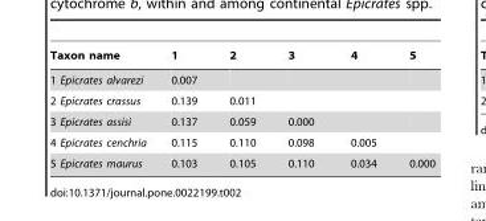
<table><thead><tr><td>Taxon name</td><td>1</td><td>2</td><td>3</td><td>4</td><td>5</td></tr></thead><tbody><tr><td>1 Epicrates alvarezi</td><td>0.007</td><td></td><td></td><td></td><td></td></tr><tr><td>2 Epicrates crassus</td><td>0.139</td><td>0.011</td><td></td><td></td><td></td></tr><tr><td>3 Epicrates assisi</td><td>0.137</td><td>0.059</td><td>0.000</td><td></td><td></td></tr><tr><td>4 Epicrates cenchria</td><td>0.115</td><td>0.110</td><td>0.098</td><td>0.005</td><td></td></tr><tr><td>5 Epicrates maurus</td><td>0.103</td><td>0.105</td><td>0.110</td><td>0.034</td><td>0.000</td></tr></tbody></table>